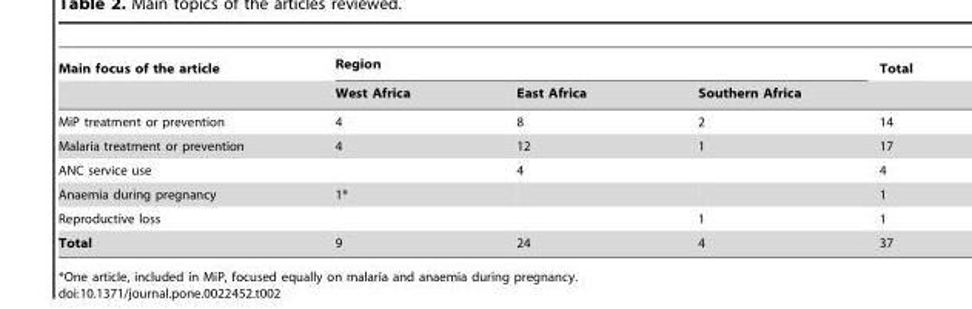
<table><thead><tr><td rowspan="2">Main focus of the article</td><td colspan="3">Region</td><td rowspan="2">Total</td></tr><tr><td>West Africa</td><td>East Africa</td><td>Southern Africa</td></tr></thead><tbody><tr><td>MiP treatment or prevention</td><td>4</td><td>8</td><td>2</td><td>14</td></tr><tr><td>Malaria treatment or prevention</td><td>4</td><td>12</td><td>1</td><td>17</td></tr><tr><td>ANC service use</td><td></td><td>4</td><td></td><td>4</td></tr><tr><td>Anaemia during pregnancy</td><td>1*</td><td></td><td></td><td>1</td></tr><tr><td>Reproductive loss</td><td></td><td></td><td>1</td><td>1</td></tr><tr><td>Total</td><td>9</td><td>24</td><td>4</td><td>37</td></tr></tbody></table>